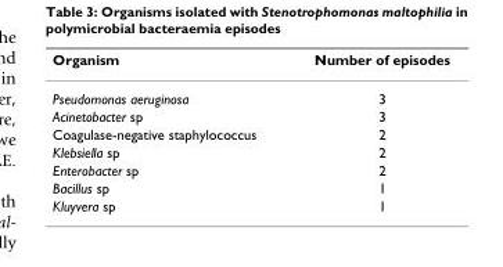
<table><thead><tr><td>Organism</td><td>Number of episodes</td></tr></thead><tbody><tr><td>Pseudomonas aeruginosa</td><td>3</td></tr><tr><td>Acinetobacter sp</td><td>3</td></tr><tr><td>Coagulase-negative staphylococcus</td><td>2</td></tr><tr><td>Klebsiella sp</td><td>2</td></tr><tr><td>Enterobacter sp</td><td>2</td></tr><tr><td>Bacillus sp</td><td>1</td></tr><tr><td>Kluyvera sp</td><td>1</td></tr></tbody></table>